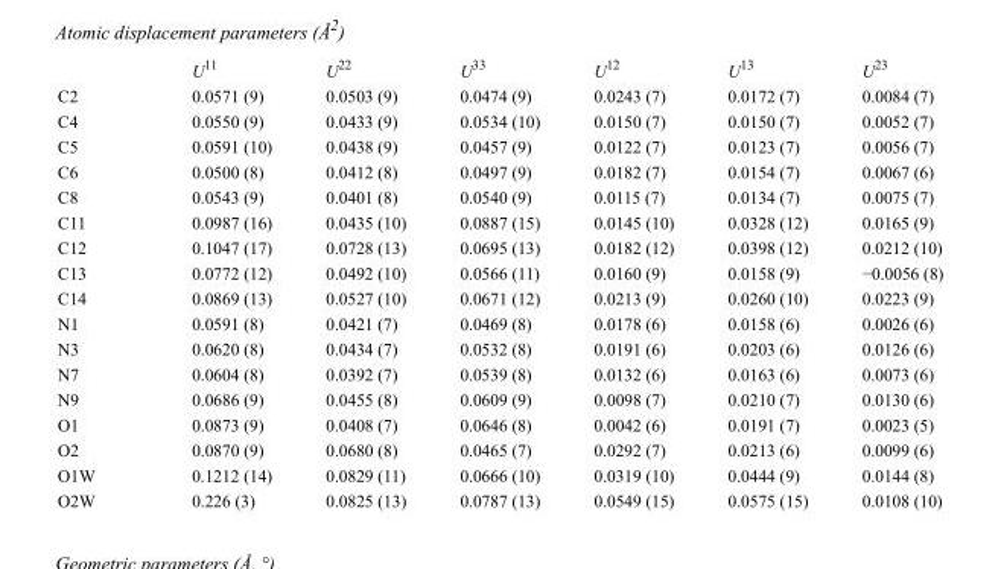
<table><thead><tr><td></td><td>U<sup>11</sup></td><td>U<sup>22</sup></td><td>U<sup>33</sup></td><td>U<sup>12</sup></td><td>U<sup>13</sup></td><td>U<sup>23</sup></td></tr></thead><tbody><tr><td>C2</td><td>0.0571 (9)</td><td>0.0503 (9)</td><td>0.0474 (9)</td><td>0.0243 (7)</td><td>0.0172 (7)</td><td>0.0084 (7)</td></tr><tr><td>C4</td><td>0.0550 (9)</td><td>0.0433 (9)</td><td>0.0534 (10)</td><td>0.0150 (7)</td><td>0.0150 (7)</td><td>0.0052 (7)</td></tr><tr><td>C5</td><td>0.0591 (10)</td><td>0.0438 (9)</td><td>0.0457 (9)</td><td>0.0122 (7)</td><td>0.0123 (7)</td><td>0.0056 (7)</td></tr><tr><td>C6</td><td>0.0500 (8)</td><td>0.0412 (8)</td><td>0.0497 (9)</td><td>0.0182 (7)</td><td>0.0154 (7)</td><td>0.0067 (6)</td></tr><tr><td>C8</td><td>0.0543 (9)</td><td>0.0401 (8)</td><td>0.0540 (9)</td><td>0.0115 (7)</td><td>0.0134 (7)</td><td>0.0075 (7)</td></tr><tr><td>C11</td><td>0.0987 (16)</td><td>0.0435 (10)</td><td>0.0887 (15)</td><td>0.0145 (10)</td><td>0.0328 (12)</td><td>0.0165 (9)</td></tr><tr><td>C12</td><td>0.1047 (17)</td><td>0.0728 (13)</td><td>0.0695 (13)</td><td>0.0182 (12)</td><td>0.0398 (12)</td><td>0.0212 (10)</td></tr><tr><td>C13</td><td>0.0772 (12)</td><td>0.0492 (10)</td><td>0.0566 (11)</td><td>0.0160 (9)</td><td>0.0158 (9)</td><td>−0.0056 (8)</td></tr><tr><td>C14</td><td>0.0869 (13)</td><td>0.0527 (10)</td><td>0.0671 (12)</td><td>0.0213 (9)</td><td>0.0260 (10)</td><td>0.0223 (9)</td></tr><tr><td>N1</td><td>0.0591 (8)</td><td>0.0421 (7)</td><td>0.0469 (8)</td><td>0.0178 (6)</td><td>0.0158 (6)</td><td>0.0026 (6)</td></tr><tr><td>N3</td><td>0.0620 (8)</td><td>0.0434 (7)</td><td>0.0532 (8)</td><td>0.0191 (6)</td><td>0.0203 (6)</td><td>0.0126 (6)</td></tr><tr><td>N7</td><td>0.0604 (8)</td><td>0.0392 (7)</td><td>0.0539 (8)</td><td>0.0132 (6)</td><td>0.0163 (6)</td><td>0.0073 (6)</td></tr><tr><td>N9</td><td>0.0686 (9)</td><td>0.0455 (8)</td><td>0.0609 (9)</td><td>0.0098 (7)</td><td>0.0210 (7)</td><td>0.0130 (6)</td></tr><tr><td>O1</td><td>0.0873 (9)</td><td>0.0408 (7)</td><td>0.0646 (8)</td><td>0.0042 (6)</td><td>0.0191 (7)</td><td>0.0023 (5)</td></tr><tr><td>O2</td><td>0.0870 (9)</td><td>0.0680 (8)</td><td>0.0465 (7)</td><td>0.0292 (7)</td><td>0.0213 (6)</td><td>0.0099 (6)</td></tr><tr><td>O1W</td><td>0.1212 (14)</td><td>0.0829 (11)</td><td>0.0666 (10)</td><td>0.0319 (10)</td><td>0.0444 (9)</td><td>0.0144 (8)</td></tr><tr><td>O2W</td><td>0.226 (3)</td><td>0.0825 (13)</td><td>0.0787 (13)</td><td>0.0549 (15)</td><td>0.0575 (15)</td><td>0.0108 (10)</td></tr></tbody></table>